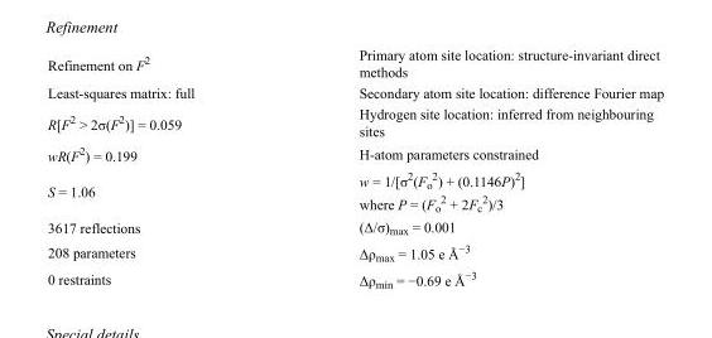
<table><tbody><tr><td>Refinement on F<sup>2</sup></td><td>Primary atom site location: structure-invariant direct methods</td></tr><tr><td>Least-squares matrix: full</td><td>Secondary atom site location: difference Fourier map</td></tr><tr><td>R[F<sup>2</sup> &gt; 2σ(F<sup>2</sup>)] = 0.059</td><td>Hydrogen site location: inferred from neighbouring sites</td></tr><tr><td>wR(F<sup>2</sup>) = 0.199</td><td>H-atom parameters constrained</td></tr><tr><td>S = 1.06</td><td>w = 1/[σ<sup>2</sup>(F<sub>o</sub> <sup>2</sup>) + (0.1146P)<sup>2</sup>] where P = (F<sub>o</sub> <sup>2</sup> + 2F<sub>c</sub> <sup>2</sup>)/3</td></tr><tr><td>3617 reflections</td><td>(Δ/σ)<sub>max</sub> = 0.001</td></tr><tr><td>208 parameters</td><td>Δρ<sub>max</sub> = 1.05 e Å<sup>−3</sup></td></tr><tr><td>0 restraints</td><td>Δρ<sub>min</sub> = −0.69 e Å<sup>−3</sup></td></tr></tbody></table>